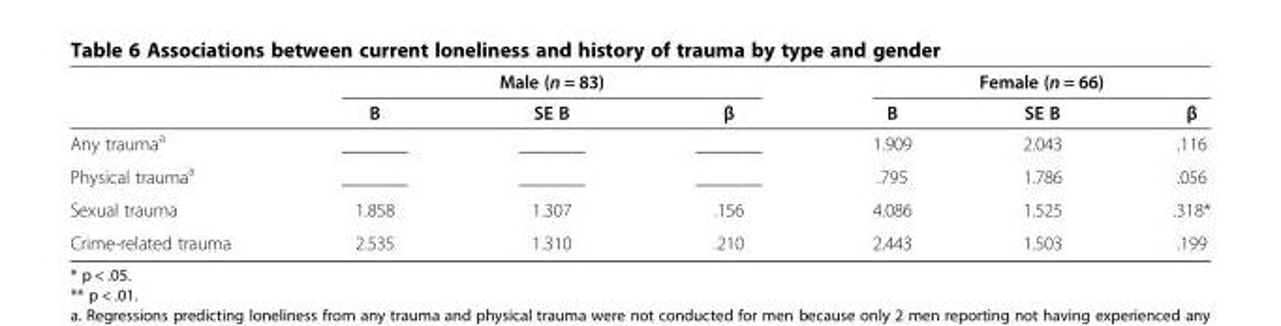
<table><thead><tr><td rowspan="2"></td><td colspan="3">Male (n = 83)</td><td colspan="3">Female (n = 66)</td></tr><tr><td>B</td><td>SE B</td><td>β</td><td>B</td><td>SE B</td><td>β</td></tr></thead><tbody><tr><td>Any trauma<sup>a</sup></td><td>_______</td><td>_______</td><td>_______</td><td>1.909</td><td>2.043</td><td>.116</td></tr><tr><td>Physical trauma<sup>a</sup></td><td>_______</td><td>_______</td><td>_______</td><td>.795</td><td>1.786</td><td>.056</td></tr><tr><td>Sexual trauma</td><td>1.858</td><td>1.307</td><td>.156</td><td>4.086</td><td>1.525</td><td>.318*</td></tr><tr><td>Crime-related trauma</td><td>2.535</td><td>1.310</td><td>.210</td><td>2.443</td><td>1.503</td><td>.199</td></tr></tbody></table>